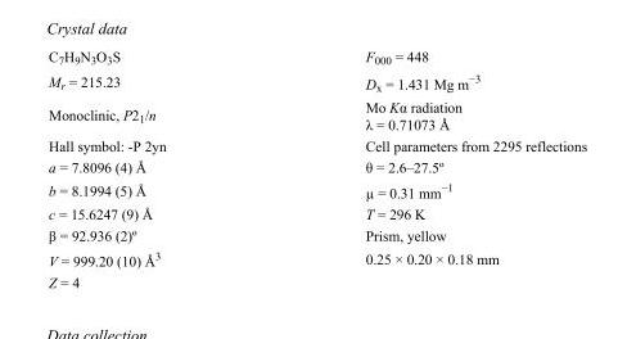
<table><tbody><tr><td>C<sub>7</sub>H<sub>9</sub>N<sub>3</sub>O<sub>3</sub>S</td><td>F000 = 448</td></tr><tr><td>M<sub>r</sub> = 215.23</td><td>D<sub>x</sub> = 1.431 Mg m<sup>−3</sup></td></tr><tr><td>Monoclinic, P2<sub>1</sub>/n</td><td>Mo Kα radiation λ = 0.71073 Å</td></tr><tr><td>Hall symbol: -P 2yn</td><td>Cell parameters from 2295 reflections</td></tr><tr><td>a = 7.8096 (4) Å</td><td>θ = 2.6–27.5º</td></tr><tr><td>b = 8.1994 (5) Å</td><td>µ = 0.31 mm<sup>−1</sup></td></tr><tr><td>c = 15.6247 (9) Å</td><td>T = 296 K</td></tr><tr><td>β = 92.936 (2)º</td><td>Prism, yellow</td></tr><tr><td>V = 999.20 (10) Å<sup>3</sup></td><td>0.25 × 0.20 × 0.18 mm</td></tr><tr><td>Z = 4</td><td></td></tr></tbody></table>